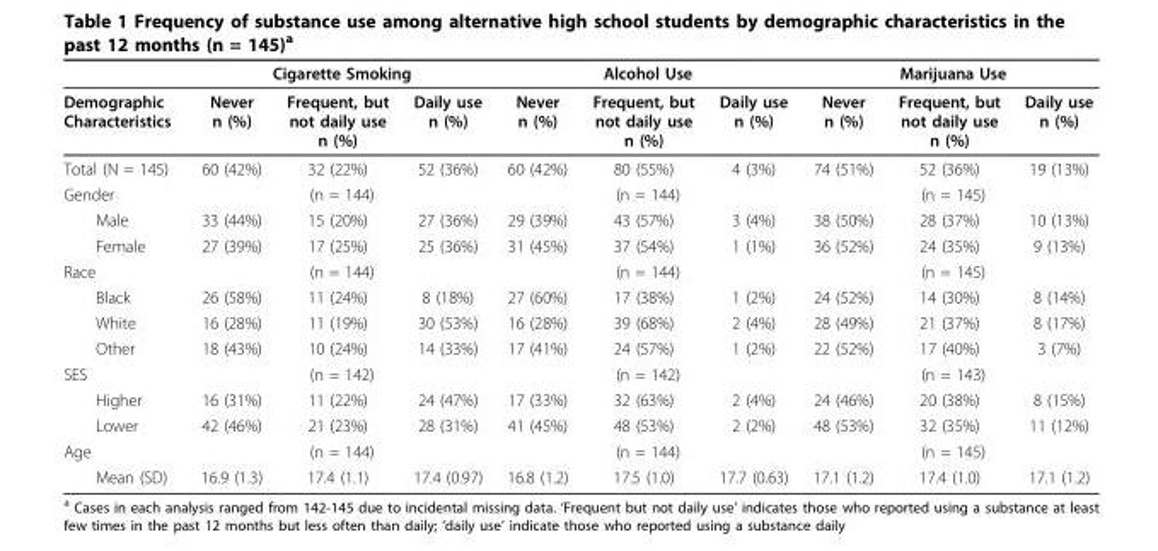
<table><thead><tr><td rowspan="2">Demographic Characteristics</td><td colspan="3">Cigarette Smoking</td><td colspan="3">Alcohol Use</td><td colspan="3">Marijuana Use</td></tr><tr><td>Never n (%)</td><td>Frequent, but not daily use n (%)</td><td>Daily use n (%)</td><td>Never n (%)</td><td>Frequent, but not daily use n (%)</td><td>Daily use n (%)</td><td>Never n (%)</td><td>Frequent, but not daily use n (%)</td><td>Daily use n (%)</td></tr></thead><tbody><tr><td>Total (N = 145)</td><td>60 (42%)</td><td>32 (22%)</td><td>52 (36%)</td><td>60 (42%)</td><td>80 (55%)</td><td>4 (3%)</td><td>74 (51%)</td><td>52 (36%)</td><td>19 (13%)</td></tr><tr><td>Gender</td><td colspan="3">(n = 144)</td><td colspan="3">(n = 144)</td><td colspan="3">(n = 145)</td></tr><tr><td>Male</td><td>33 (44%)</td><td>15 (20%)</td><td>27 (36%)</td><td>29 (39%)</td><td>43 (57%)</td><td>3 (4%)</td><td>38 (50%)</td><td>28 (37%)</td><td>10 (13%)</td></tr><tr><td>Female</td><td>27 (39%)</td><td>17 (25%)</td><td>25 (36%)</td><td>31 (45%)</td><td>37 (54%)</td><td>1 (1%)</td><td>36 (52%)</td><td>24 (35%)</td><td>9 (13%)</td></tr><tr><td>Race</td><td colspan="3">(n = 144)</td><td colspan="3">(n = 144)</td><td colspan="3">(n = 145)</td></tr><tr><td>Black</td><td>26 (58%)</td><td>11 (24%)</td><td>8 (18%)</td><td>27 (60%)</td><td>17 (38%)</td><td>1 (2%)</td><td>24 (52%)</td><td>14 (30%)</td><td>8 (14%)</td></tr><tr><td>White</td><td>16 (28%)</td><td>11 (19%)</td><td>30 (53%)</td><td>16 (28%)</td><td>39 (68%)</td><td>2 (4%)</td><td>28 (49%)</td><td>21 (37%)</td><td>8 (17%)</td></tr><tr><td>Other</td><td>18 (43%)</td><td>10 (24%)</td><td>14 (33%)</td><td>17 (41%)</td><td>24 (57%)</td><td>1 (2%)</td><td>22 (52%)</td><td>17 (40%)</td><td>3 (7%)</td></tr><tr><td>SES</td><td colspan="3">(n = 142)</td><td colspan="3">(n = 142)</td><td colspan="3">(n = 143)</td></tr><tr><td>Higher</td><td>16 (31%)</td><td>11 (22%)</td><td>24 (47%)</td><td>17 (33%)</td><td>32 (63%)</td><td>2 (4%)</td><td>24 (46%)</td><td>20 (38%)</td><td>8 (15%)</td></tr><tr><td>Lower</td><td>42 (46%)</td><td>21 (23%)</td><td>28 (31%)</td><td>41 (45%)</td><td>48 (53%)</td><td>2 (2%)</td><td>48 (53%)</td><td>32 (35%)</td><td>11 (12%)</td></tr><tr><td>Age</td><td colspan="3">(n = 144)</td><td colspan="3">(n = 144)</td><td colspan="3">(n = 145)</td></tr><tr><td>Mean (SD)</td><td>16.9 (1.3)</td><td>17.4 (1.1)</td><td>17.4 (0.97)</td><td>16.8 (1.2)</td><td>17.5 (1.0)</td><td>17.7 (0.63)</td><td>17.1 (1.2)</td><td>17.4 (1.0)</td><td>17.1 (1.2)</td></tr></tbody></table>